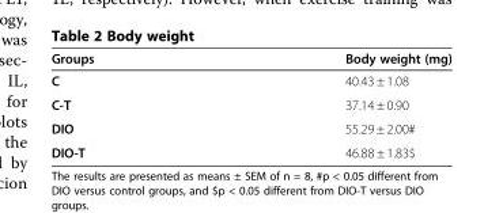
<table><thead><tr><td>Groups</td><td>Body weight (mg)</td></tr></thead><tbody><tr><td>C</td><td>40.43 ± 1.08</td></tr><tr><td>C-T</td><td>37.14 ± 0.90</td></tr><tr><td>DIO</td><td>55.29 ± 2.00#</td></tr><tr><td>DIO-T</td><td>46.88 ± 1.83$</td></tr></tbody></table>